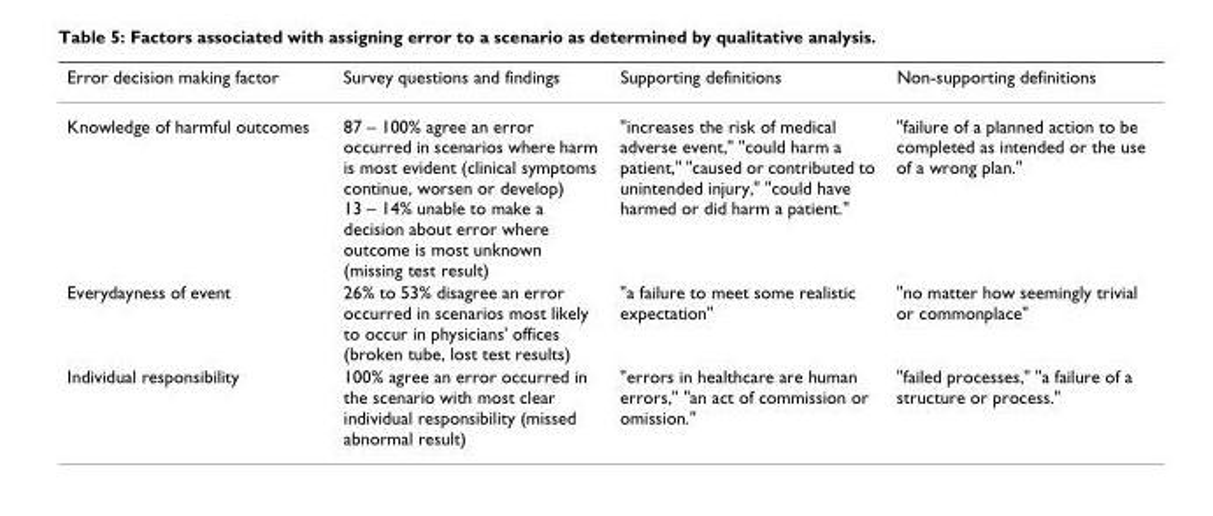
<table><thead><tr><td>Error decision making factor</td><td>Survey questions and findings</td><td>Supporting definitions</td><td>Non-supporting definitions</td></tr></thead><tbody><tr><td>Knowledge of harmful outcomes</td><td>87 – 100% agree an error occurred in scenarios where harm is most evident (clinical symptoms continue, worsen or develop) 13 – 14% unable to make a decision about error where outcome is most unknown (missing test result)</td><td>&quot;increases the risk of medical adverse event,&quot; &quot;could harm a patient,&quot; &quot;caused or contributed to unintended injury,&quot; &quot;could have harmed or did harm a patient.&quot;</td><td>&quot;failure of a planned action to be completed as intended or the use of a wrong plan.&quot;</td></tr><tr><td>Everydayness of event</td><td>26% to 53% disagree an error occurred in scenarios most likely to occur in physicians&#x27; offices (broken tube, lost test results)</td><td>&quot;a failure to meet some realistic expectation&quot;</td><td>&quot;no matter how seemingly trivial or commonplace&quot;</td></tr><tr><td>Individual responsibility</td><td>100% agree an error occurred in the scenario with most clear individual responsibility (missed abnormal result)</td><td>&quot;errors in healthcare are human errors,&quot; &quot;an act of commission or omission.&quot;</td><td>&quot;failed processes,&quot; &quot;a failure of a structure or process.&quot;</td></tr></tbody></table>